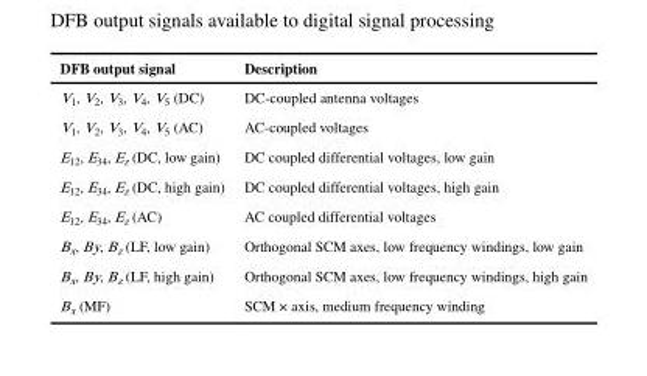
<table><thead><tr><td>DFB output signal</td><td>Description</td></tr></thead><tbody><tr><td>V<sub>1</sub>, V<sub>2</sub>, V<sub>3</sub>, V<sub>4</sub>, V<sub>5</sub> (DC)</td><td>DC-coupled antenna voltages</td></tr><tr><td>V<sub>1</sub>, V<sub>2</sub>, V<sub>3</sub>, V<sub>4</sub>, V<sub>5</sub> (AC)</td><td>AC-coupled voltages</td></tr><tr><td>E<sub>12</sub>, E<sub>34</sub>, E<sub>z</sub> (DC, low gain)</td><td>DC coupled differential voltages, low gain</td></tr><tr><td>E<sub>12</sub>, E<sub>34</sub>, E<sub>z</sub> (DC, high gain)</td><td>DC coupled differential voltages, high gain</td></tr><tr><td>E<sub>12</sub>, E<sub>34</sub>, E<sub>z</sub> (AC)</td><td>AC coupled differential voltages</td></tr><tr><td>B<sub>x</sub>, By, B<sub>z</sub> (LF, low gain)</td><td>Orthogonal SCM axes, low frequency windings, low gain</td></tr><tr><td>B<sub>x</sub>, By, B<sub>z</sub> (LF, high gain)</td><td>Orthogonal SCM axes, low frequency windings, high gain</td></tr><tr><td>B<sub>x</sub> (MF)</td><td>SCM × axis, medium frequency winding</td></tr></tbody></table>